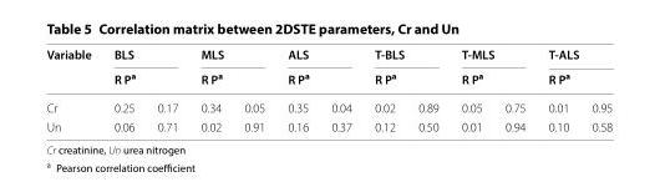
<table><thead><tr><td rowspan="3">Variable Cr</td><td rowspan="2" colspan="2">BLS R P<sup>a</sup></td><td rowspan="2" colspan="2">MLS R P<sup>a</sup></td><td rowspan="2" colspan="2">ALS R P<sup>a</sup></td><td rowspan="2" colspan="2">T‑BLS R P<sup>a</sup></td><td rowspan="2" colspan="2">T‑MLS R P<sup>a</sup></td><td rowspan="2" colspan="2">T‑ALS R P<sup>a</sup></td></tr><tr></tr><tr><td>0.25</td><td>0.17</td><td>0.34</td><td>0.05</td><td>0.35</td><td>0.04</td><td>0.02</td><td>0.89</td><td>0.05</td><td>0.75</td><td>0.01</td><td>0.95</td></tr></thead><tbody><tr><td>Un</td><td>0.06</td><td>0.71</td><td>0.02</td><td>0.91</td><td>0.16</td><td>0.37</td><td>0.12</td><td>0.50</td><td>0.01</td><td>0.94</td><td>0.10</td><td>0.58</td></tr></tbody></table>